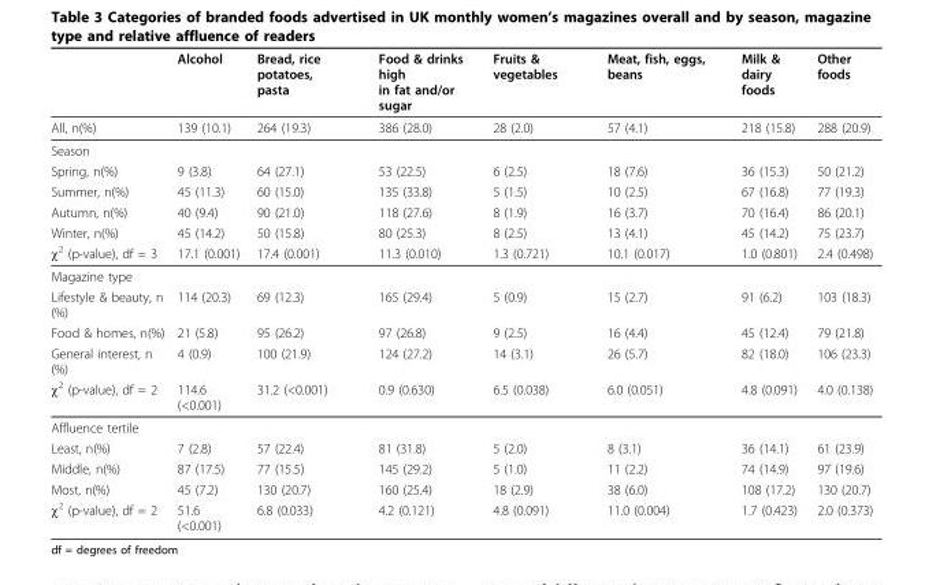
<table><thead><tr><td></td><td>Alcohol</td><td>Bread, rice potatoes, pasta</td><td>Food &amp; drinks high in fat and/or sugar</td><td>Fruits &amp; vegetables</td><td>Meat, fish, eggs, beans</td><td>Milk &amp; dairy foods</td><td>Other foods</td></tr></thead><tbody><tr><td>All, n(%)</td><td>139 (10.1)</td><td>264 (19.3)</td><td>386 (28.0)</td><td>28 (2.0)</td><td>57 (4.1)</td><td>218 (15.8)</td><td>288 (20.9)</td></tr><tr><td colspan="8">Season</td></tr><tr><td>Spring, n(%)</td><td>9 (3.8)</td><td>64 (27.1)</td><td>53 (22.5)</td><td>6 (2.5)</td><td>18 (7.6)</td><td>36 (15.3)</td><td>50 (21.2)</td></tr><tr><td>Summer, n(%)</td><td>45 (11.3)</td><td>60 (15.0)</td><td>135 (33.8)</td><td>5 (1.5)</td><td>10 (2.5)</td><td>67 (16.8)</td><td>77 (19.3)</td></tr><tr><td>Autumn, n(%)</td><td>40 (9.4)</td><td>90 (21.0)</td><td>118 (27.6)</td><td>8 (1.9)</td><td>16 (3.7)</td><td>70 (16.4)</td><td>86 (20.1)</td></tr><tr><td>Winter, n(%)</td><td>45 (14.2)</td><td>50 (15.8)</td><td>80 (25.3)</td><td>8 (2.5)</td><td>13 (4.1)</td><td>45 (14.2)</td><td>75 (23.7)</td></tr><tr><td>χ<sup>2</sup> (p-value), df = 3</td><td>17.1 (0.001)</td><td>17.4 (0.001)</td><td>11.3 (0.010)</td><td>1.3 (0.721)</td><td>10.1 (0.017)</td><td>1.0 (0.801)</td><td>2.4 (0.498)</td></tr><tr><td colspan="8">Magazine type</td></tr><tr><td>Lifestyle &amp; beauty, n (%)</td><td>114 (20.3)</td><td>69 (12.3)</td><td>165 (29.4)</td><td>5 (0.9)</td><td>15 (2.7)</td><td>91 (6.2)</td><td>103 (18.3)</td></tr><tr><td>Food &amp; homes, n(%)</td><td>21 (5.8)</td><td>95 (26.2)</td><td>97 (26.8)</td><td>9 (2.5)</td><td>16 (4.4)</td><td>45 (12.4)</td><td>79 (21.8)</td></tr><tr><td>General interest, n (%)</td><td>4 (0.9)</td><td>100 (21.9)</td><td>124 (27.2)</td><td>14 (3.1)</td><td>26 (5.7)</td><td>82 (18.0)</td><td>106 (23.3)</td></tr><tr><td>χ<sup>2</sup> (p-value), df = 2</td><td>114.6 (&lt;0.001)</td><td>31.2 (&lt;0.001)</td><td>0.9 (0.630)</td><td>6.5 (0.038)</td><td>6.0 (0.051)</td><td>4.8 (0.091)</td><td>4.0 (0.138)</td></tr><tr><td colspan="8">Affluence tertile</td></tr><tr><td>Least, n(%)</td><td>7 (2.8)</td><td>57 (22.4)</td><td>81 (31.8)</td><td>5 (2.0)</td><td>8 (3.1)</td><td>36 (14.1)</td><td>61 (23.9)</td></tr><tr><td>Middle, n(%)</td><td>87 (17.5)</td><td>77 (15.5)</td><td>145 (29.2)</td><td>5 (1.0)</td><td>11 (2.2)</td><td>74 (14.9)</td><td>97 (19.6)</td></tr><tr><td>Most, n(%)</td><td>45 (7.2)</td><td>130 (20.7)</td><td>160 (25.4)</td><td>18 (2.9)</td><td>38 (6.0)</td><td>108 (17.2)</td><td>130 (20.7)</td></tr><tr><td>χ<sup>2</sup> (p-value), df = 2</td><td>51.6 (&lt;0.001)</td><td>6.8 (0.033)</td><td>4.2 (0.121)</td><td>4.8 (0.091)</td><td>11.0 (0.004)</td><td>1.7 (0.423)</td><td>2.0 (0.373)</td></tr></tbody></table>